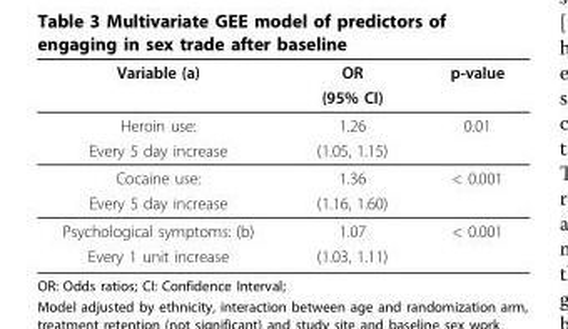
<table><thead><tr><td rowspan="2">Variable (a)</td><td rowspan="2">OR (95% CI)</td><td rowspan="2">p-value</td></tr><tr></tr></thead><tbody><tr><td>Heroin use:</td><td>1.26</td><td>0.01</td></tr><tr><td>Every 5 day increase</td><td>(1.05, 1.15)</td><td></td></tr><tr><td>Cocaine use:</td><td>1.36</td><td>&lt; 0.001</td></tr><tr><td>Every 5 day increase</td><td>(1.16, 1.60)</td><td></td></tr><tr><td>Psychological symptoms: (b)</td><td>1.07</td><td>&lt; 0.001</td></tr><tr><td>Every 1 unit increase</td><td>(1.03, 1.11)</td><td></td></tr></tbody></table>